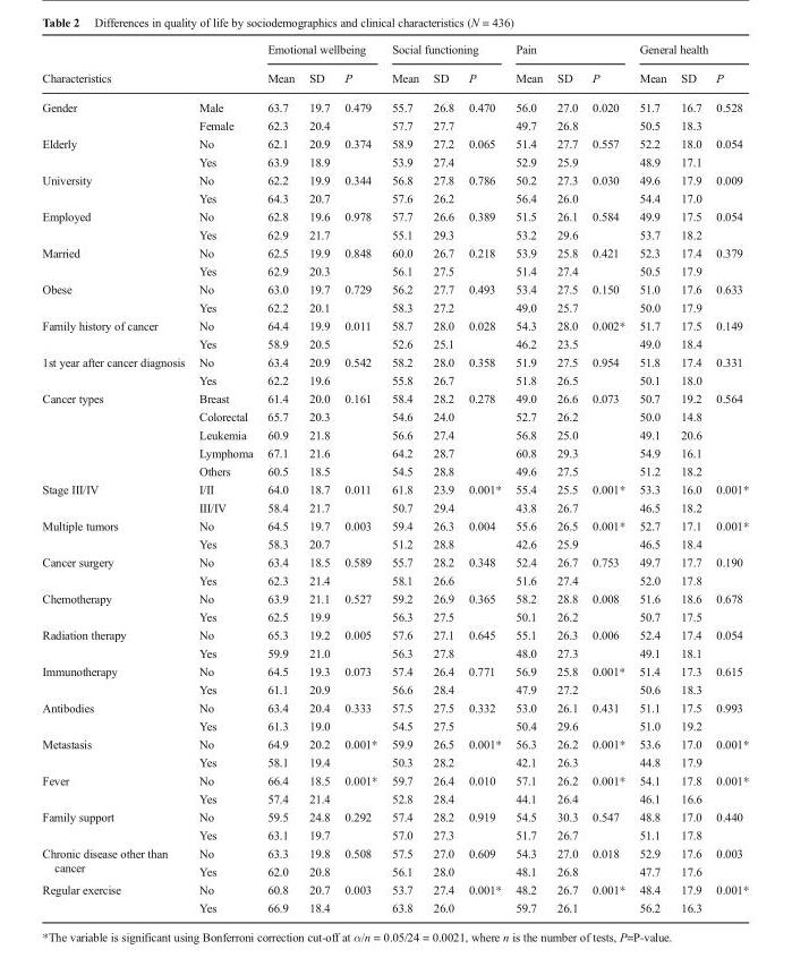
<table><thead><tr><td></td><td></td><td colspan="3">Emotional wellbeing</td><td colspan="3">Social functioning</td><td colspan="3">Pain</td><td colspan="3">General health</td></tr><tr><td colspan="2">Characteristics</td><td>Mean</td><td>SD</td><td>P</td><td>Mean</td><td>SD</td><td>P</td><td>Mean</td><td>SD</td><td>P</td><td>Mean</td><td>SD</td><td>P</td></tr></thead><tbody><tr><td rowspan="2">Gender</td><td>Male</td><td>63.7</td><td>19.7</td><td>0.479</td><td>55.7</td><td>26.8</td><td>0.470</td><td>56.0</td><td>27.0</td><td>0.020</td><td>51.7</td><td>16.7</td><td>0.528</td></tr><tr><td>Female</td><td>62.3</td><td>20.4</td><td></td><td>57.7</td><td>27.7</td><td></td><td>49.7</td><td>26.8</td><td></td><td>50.5</td><td>18.3</td><td></td></tr><tr><td rowspan="2">Elderly</td><td>No</td><td>62.1</td><td>20.9</td><td>0.374</td><td>58.9</td><td>27.2</td><td>0.065</td><td>51.4</td><td>27.7</td><td>0.557</td><td>52.2</td><td>18.0</td><td>0.054</td></tr><tr><td>Yes</td><td>63.9</td><td>18.9</td><td></td><td>53.9</td><td>27.4</td><td></td><td>52.9</td><td>25.9</td><td></td><td>48.9</td><td>17.1</td><td></td></tr><tr><td rowspan="2">University</td><td>No</td><td>62.2</td><td>19.9</td><td>0.344</td><td>56.8</td><td>27.8</td><td>0.786</td><td>50.2</td><td>27.3</td><td>0.030</td><td>49.6</td><td>17.9</td><td>0.009</td></tr><tr><td>Yes</td><td>64.3</td><td>20.7</td><td></td><td>57.6</td><td>26.2</td><td></td><td>56.4</td><td>26.0</td><td></td><td>54.4</td><td>17.0</td><td></td></tr><tr><td rowspan="2">Employed</td><td>No</td><td>62.8</td><td>19.6</td><td>0.978</td><td>57.7</td><td>26.6</td><td>0.389</td><td>51.5</td><td>26.1</td><td>0.584</td><td>49.9</td><td>17.5</td><td>0.054</td></tr><tr><td>Yes</td><td>62.9</td><td>21.7</td><td></td><td>55.1</td><td>29.3</td><td></td><td>53.2</td><td>29.6</td><td></td><td>53.7</td><td>18.2</td><td></td></tr><tr><td rowspan="2">Married</td><td>No</td><td>62.5</td><td>19.9</td><td>0.848</td><td>60.0</td><td>26.7</td><td>0.218</td><td>53.9</td><td>25.8</td><td>0.421</td><td>52.3</td><td>17.4</td><td>0.379</td></tr><tr><td>Yes</td><td>62.9</td><td>20.3</td><td></td><td>56.1</td><td>27.5</td><td></td><td>51.4</td><td>27.4</td><td></td><td>50.5</td><td>17.9</td><td></td></tr><tr><td rowspan="2">Obese</td><td>No</td><td>63.0</td><td>19.7</td><td>0.729</td><td>56.2</td><td>27.7</td><td>0.493</td><td>53.4</td><td>27.5</td><td>0.150</td><td>51.0</td><td>17.6</td><td>0.633</td></tr><tr><td>Yes</td><td>62.2</td><td>20.1</td><td></td><td>58.3</td><td>27.2</td><td></td><td>49.0</td><td>25.7</td><td></td><td>50.0</td><td>17.9</td><td></td></tr><tr><td rowspan="2">Family history of cancer</td><td>No</td><td>64.4</td><td>19.9</td><td>0.011</td><td>58.7</td><td>28.0</td><td>0.028</td><td>54.3</td><td>28.0</td><td>0.002*</td><td>51.7</td><td>17.5</td><td>0.149</td></tr><tr><td>Yes</td><td>58.9</td><td>20.5</td><td></td><td>52.6</td><td>25.1</td><td></td><td>46.2</td><td>23.5</td><td></td><td>49.0</td><td>18.4</td><td></td></tr><tr><td rowspan="2">1st year after cancer diagnosis</td><td>No</td><td>63.4</td><td>20.9</td><td>0.542</td><td>58.2</td><td>28.0</td><td>0.358</td><td>51.9</td><td>27.5</td><td>0.954</td><td>51.8</td><td>17.4</td><td>0.331</td></tr><tr><td>Yes</td><td>62.2</td><td>19.6</td><td></td><td>55.8</td><td>26.7</td><td></td><td>51.8</td><td>26.5</td><td></td><td>50.1</td><td>18.0</td><td></td></tr><tr><td rowspan="5">Cancer types</td><td>Breast</td><td>61.4</td><td>20.0</td><td>0.161</td><td>58.4</td><td>28.2</td><td>0.278</td><td>49.0</td><td>26.6</td><td>0.073</td><td>50.7</td><td>19.2</td><td>0.564</td></tr><tr><td>Colorectal</td><td>65.7</td><td>20.3</td><td></td><td>54.6</td><td>24.0</td><td></td><td>52.7</td><td>26.2</td><td></td><td>50.0</td><td>14.8</td><td></td></tr><tr><td>Leukemia</td><td>60.9</td><td>21.8</td><td></td><td>56.6</td><td>27.4</td><td></td><td>56.8</td><td>25.0</td><td></td><td>49.1</td><td>20.6</td><td></td></tr><tr><td>Lymphoma</td><td>67.1</td><td>21.6</td><td></td><td>64.2</td><td>28.7</td><td></td><td>60.8</td><td>29.3</td><td></td><td>54.9</td><td>16.1</td><td></td></tr><tr><td>Others</td><td>60.5</td><td>18.5</td><td></td><td>54.5</td><td>28.8</td><td></td><td>49.6</td><td>27.5</td><td></td><td>51.2</td><td>18.2</td><td></td></tr><tr><td rowspan="2">Stage III/IV</td><td>I/II</td><td>64.0</td><td>18.7</td><td>0.011</td><td>61.8</td><td>23.9</td><td>0.001*</td><td>55.4</td><td>25.5</td><td>0.001*</td><td>53.3</td><td>16.0</td><td>0.001*</td></tr><tr><td>III/IV</td><td>58.4</td><td>21.7</td><td></td><td>50.7</td><td>29.4</td><td></td><td>43.8</td><td>26.7</td><td></td><td>46.5</td><td>18.2</td><td></td></tr><tr><td rowspan="2">Multiple tumors</td><td>No</td><td>64.5</td><td>19.7</td><td>0.003</td><td>59.4</td><td>26.3</td><td>0.004</td><td>55.6</td><td>26.5</td><td>0.001*</td><td>52.7</td><td>17.1</td><td>0.001*</td></tr><tr><td>Yes</td><td>58.3</td><td>20.7</td><td></td><td>51.2</td><td>28.8</td><td></td><td>42.6</td><td>25.9</td><td></td><td>46.5</td><td>18.4</td><td></td></tr><tr><td rowspan="2">Cancer surgery</td><td>No</td><td>63.4</td><td>18.5</td><td>0.589</td><td>55.7</td><td>28.2</td><td>0.348</td><td>52.4</td><td>26.7</td><td>0.753</td><td>49.7</td><td>17.7</td><td>0.190</td></tr><tr><td>Yes</td><td>62.3</td><td>21.4</td><td></td><td>58.1</td><td>26.6</td><td></td><td>51.6</td><td>27.4</td><td></td><td>52.0</td><td>17.8</td><td></td></tr><tr><td rowspan="2">Chemotherapy</td><td>No</td><td>63.9</td><td>21.1</td><td>0.527</td><td>59.2</td><td>26.9</td><td>0.365</td><td>58.2</td><td>28.8</td><td>0.008</td><td>51.6</td><td>18.6</td><td>0.678</td></tr><tr><td>Yes</td><td>62.5</td><td>19.9</td><td></td><td>56.3</td><td>27.5</td><td></td><td>50.1</td><td>26.2</td><td></td><td>50.7</td><td>17.5</td><td></td></tr><tr><td rowspan="2">Radiation therapy</td><td>No</td><td>65.3</td><td>19.2</td><td>0.005</td><td>57.6</td><td>27.1</td><td>0.645</td><td>55.1</td><td>26.3</td><td>0.006</td><td>52.4</td><td>17.4</td><td>0.054</td></tr><tr><td>Yes</td><td>59.9</td><td>21.0</td><td></td><td>56.3</td><td>27.8</td><td></td><td>48.0</td><td>27.3</td><td></td><td>49.1</td><td>18.1</td><td></td></tr><tr><td rowspan="2">Immunotherapy</td><td>No</td><td>64.5</td><td>19.3</td><td>0.073</td><td>57.4</td><td>26.4</td><td>0.771</td><td>56.9</td><td>25.8</td><td>0.001*</td><td>51.4</td><td>17.3</td><td>0.615</td></tr><tr><td>Yes</td><td>61.1</td><td>20.9</td><td></td><td>56.6</td><td>28.4</td><td></td><td>47.9</td><td>27.2</td><td></td><td>50.6</td><td>18.3</td><td></td></tr><tr><td rowspan="2">Antibodies</td><td>No</td><td>63.4</td><td>20.4</td><td>0.333</td><td>57.5</td><td>27.5</td><td>0.332</td><td>53.0</td><td>26.1</td><td>0.431</td><td>51.1</td><td>17.5</td><td>0.993</td></tr><tr><td>Yes</td><td>61.3</td><td>19.0</td><td></td><td>54.5</td><td>27.5</td><td></td><td>50.4</td><td>29.6</td><td></td><td>51.0</td><td>19.2</td><td></td></tr><tr><td rowspan="2">Metastasis</td><td>No</td><td>64.9</td><td>20.2</td><td>0.001*</td><td>59.9</td><td>26.5</td><td>0.001*</td><td>56.3</td><td>26.2</td><td>0.001*</td><td>53.6</td><td>17.0</td><td>0.001*</td></tr><tr><td>Yes</td><td>58.1</td><td>19.4</td><td></td><td>50.3</td><td>28.2</td><td></td><td>42.1</td><td>26.3</td><td></td><td>44.8</td><td>17.9</td><td></td></tr><tr><td rowspan="2">Fever</td><td>No</td><td>66.4</td><td>18.5</td><td>0.001*</td><td>59.7</td><td>26.4</td><td>0.010</td><td>57.1</td><td>26.2</td><td>0.001*</td><td>54.1</td><td>17.8</td><td>0.001*</td></tr><tr><td>Yes</td><td>57.4</td><td>21.4</td><td></td><td>52.8</td><td>28.4</td><td></td><td>44.1</td><td>26.4</td><td></td><td>46.1</td><td>16.6</td><td></td></tr><tr><td rowspan="2">Family support</td><td>No</td><td>59.5</td><td>24.8</td><td>0.292</td><td>57.4</td><td>28.2</td><td>0.919</td><td>54.5</td><td>30.3</td><td>0.547</td><td>48.8</td><td>17.0</td><td>0.440</td></tr><tr><td>Yes</td><td>63.1</td><td>19.7</td><td></td><td>57.0</td><td>27.3</td><td></td><td>51.7</td><td>26.7</td><td></td><td>51.1</td><td>17.8</td><td></td></tr><tr><td rowspan="2">Chronic disease other than cancer</td><td>No</td><td>63.3</td><td>19.8</td><td>0.508</td><td>57.5</td><td>27.0</td><td>0.609</td><td>54.3</td><td>27.0</td><td>0.018</td><td>52.9</td><td>17.6</td><td>0.003</td></tr><tr><td>Yes</td><td>62.0</td><td>20.8</td><td></td><td>56.1</td><td>28.0</td><td></td><td>48.1</td><td>26.8</td><td></td><td>47.7</td><td>17.6</td><td></td></tr><tr><td rowspan="2">Regular exercise</td><td>No</td><td>60.8</td><td>20.7</td><td>0.003</td><td>53.7</td><td>27.4</td><td>0.001*</td><td>48.2</td><td>26.7</td><td>0.001*</td><td>48.4</td><td>17.9</td><td>0.001*</td></tr><tr><td>Yes</td><td>66.9</td><td>18.4</td><td></td><td>63.8</td><td>26.0</td><td></td><td>59.7</td><td>26.1</td><td></td><td>56.2</td><td>16.3</td><td></td></tr></tbody></table>